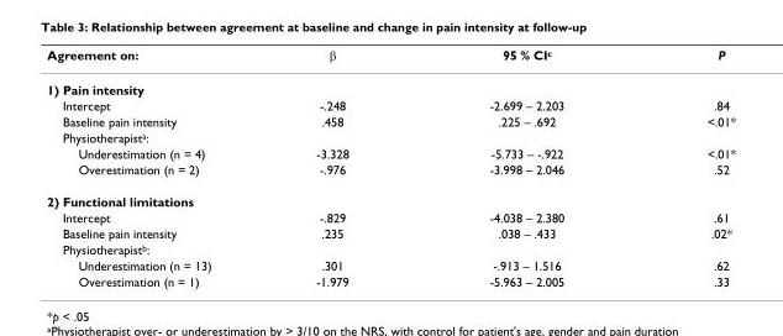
<table><thead><tr><td>Agreement on:</td><td>β</td><td>95 % CIc</td><td>P</td></tr></thead><tbody><tr><td colspan="4">1) Pain intensity</td></tr><tr><td>Intercept</td><td>-.248</td><td>-2.699 – 2.203</td><td>.84</td></tr><tr><td>Baseline pain intensity</td><td>.458</td><td>.225 – .692</td><td>&lt;.01*</td></tr><tr><td colspan="4">Physiotherapista:</td></tr><tr><td>Underestimation (n = 4)</td><td>-3.328</td><td>-5.733 – -.922</td><td>&lt;.01*</td></tr><tr><td>Overestimation (n = 2)</td><td>-.976</td><td>-3.998 – 2.046</td><td>.52</td></tr><tr><td colspan="4">2) Functional limitations</td></tr><tr><td>Intercept</td><td>-.829</td><td>-4.038 – 2.380</td><td>.61</td></tr><tr><td>Baseline pain intensity</td><td>.235</td><td>.038 – .433</td><td>.02*</td></tr><tr><td colspan="4">Physiotherapistb:</td></tr><tr><td>Underestimation (n = 13)</td><td>.301</td><td>-.913 – 1.516</td><td>.62</td></tr><tr><td>Overestimation (n = 1)</td><td>-1.979</td><td>-5.963 – 2.005</td><td>.33</td></tr></tbody></table>